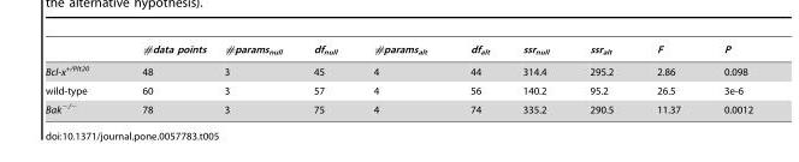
<table><thead><tr><td></td><td>#data points</td><td>#params<sub>null</sub></td><td>df<sub>null</sub></td><td>#params<sub>alt</sub></td><td>df<sub>alt</sub></td><td>ssr<sub>null</sub></td><td>ssr<sub>alt</sub></td><td>F</td><td>P</td></tr></thead><tbody><tr><td>Bcl-x<sup>+/Plt20</sup></td><td>48</td><td>3</td><td>45</td><td>4</td><td>44</td><td>314.4</td><td>295.2</td><td>2.86</td><td>0.098</td></tr><tr><td>wild-type</td><td>60</td><td>3</td><td>57</td><td>4</td><td>56</td><td>140.2</td><td>95.2</td><td>26.5</td><td>3e-6</td></tr><tr><td>Bak<sup>−/−</sup></td><td>78</td><td>3</td><td>75</td><td>4</td><td>74</td><td>335.2</td><td>290.5</td><td>11.37</td><td>0.0012</td></tr></tbody></table>